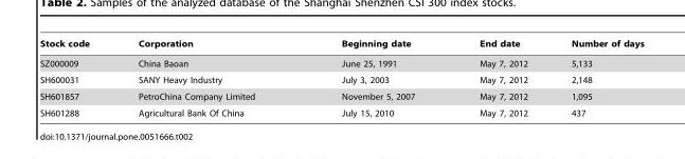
<table><thead><tr><td>Stock code</td><td>Corporation</td><td>Beginning date</td><td>End date</td><td>Number of days</td></tr></thead><tbody><tr><td>SZ000009</td><td>China Baoan</td><td>June 25, 1991</td><td>May 7, 2012</td><td>5,133</td></tr><tr><td>SH600031</td><td>SANY Heavy Industry</td><td>July 3, 2003</td><td>May 7, 2012</td><td>2,148</td></tr><tr><td>SH601857</td><td>PetroChina Company Limited</td><td>November 5, 2007</td><td>May 7, 2012</td><td>1,095</td></tr><tr><td>SH601288</td><td>Agricultural Bank Of China</td><td>July 15, 2010</td><td>May 7, 2012</td><td>437</td></tr></tbody></table>